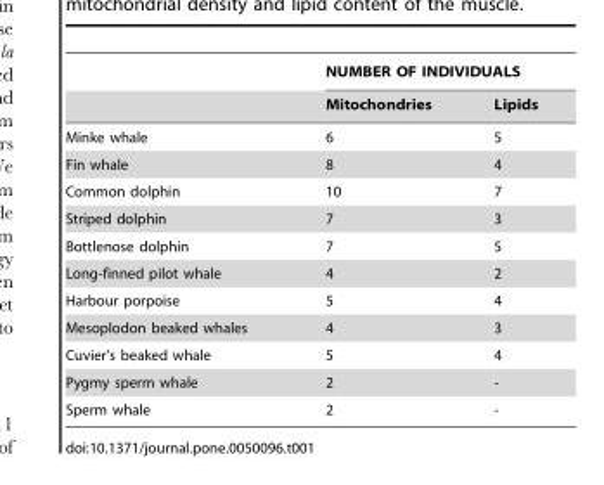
<table><thead><tr><td rowspan="2"></td><td colspan="2">NUMBER OF INDIVIDUALS</td></tr><tr><td>Mitochondries</td><td>Lipids</td></tr></thead><tbody><tr><td>Minke whale</td><td>6</td><td>5</td></tr><tr><td>Fin whale</td><td>8</td><td>4</td></tr><tr><td>Common dolphin</td><td>10</td><td>7</td></tr><tr><td>Striped dolphin</td><td>7</td><td>3</td></tr><tr><td>Bottlenose dolphin</td><td>7</td><td>5</td></tr><tr><td>Long-finned pilot whale</td><td>4</td><td>2</td></tr><tr><td>Harbour porpoise</td><td>5</td><td>4</td></tr><tr><td>Mesoplodon beaked whales</td><td>4</td><td>3</td></tr><tr><td>Cuvier’s beaked whale</td><td>5</td><td>4</td></tr><tr><td>Pygmy sperm whale</td><td>2</td><td>-</td></tr><tr><td>Sperm whale</td><td>2</td><td>-</td></tr></tbody></table>